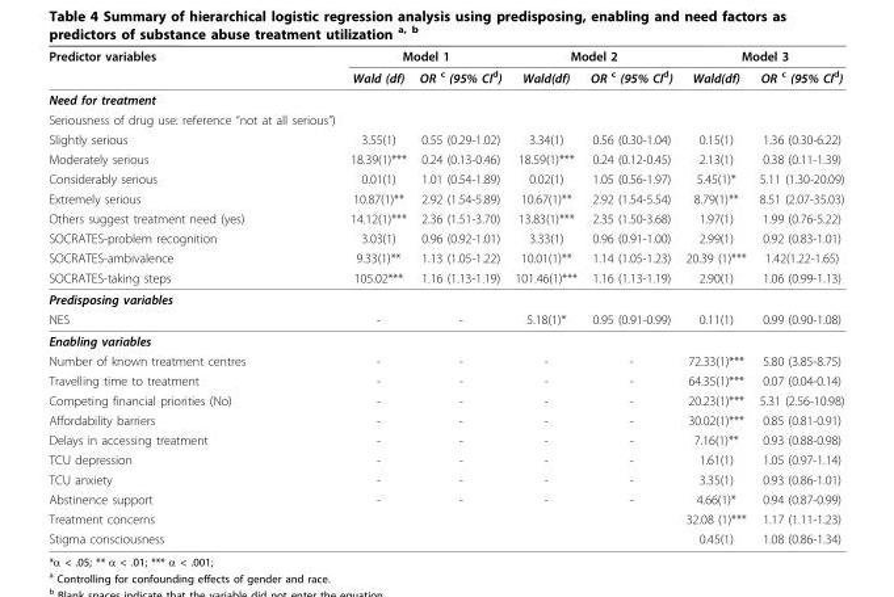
<table><thead><tr><td rowspan="2">Predictor variables</td><td colspan="2">Model 1</td><td colspan="2">Model 2</td><td colspan="2">Model 3</td></tr><tr><td>Wald (df)</td><td>OR <sup>c</sup> (95% CI<sup>d</sup>)</td><td>Wald(df)</td><td>OR <sup>c</sup> (95% CI<sup>d</sup>)</td><td>Wald(df)</td><td>OR <sup>c</sup> (95% CI<sup>d</sup>)</td></tr></thead><tbody><tr><td colspan="7">Need for treatment</td></tr><tr><td colspan="7">Seriousness of drug use: reference “not at all serious”)</td></tr><tr><td>Slightly serious</td><td>3.55(1)</td><td>0.55 (0.29-1.02)</td><td>3.34(1)</td><td>0.56 (0.30-1.04)</td><td>0.15(1)</td><td>1.36 (0.30-6.22)</td></tr><tr><td>Moderately serious</td><td>18.39(1)***</td><td>0.24 (0.13-0.46)</td><td>18.59(1)***</td><td>0.24 (0.12-0.45)</td><td>2.13(1)</td><td>0.38 (0.11-1.39)</td></tr><tr><td>Considerably serious</td><td>0.01(1)</td><td>1.01 (0.54-1.89)</td><td>0.02(1)</td><td>1.05 (0.56-1.97)</td><td>5.45(1)*</td><td>5.11 (1.30-20.09)</td></tr><tr><td>Extremely serious</td><td>10.87(1)**</td><td>2.92 (1.54-5.89)</td><td>10.67(1)**</td><td>2.92 (1.54-5.54)</td><td>8.79(1)**</td><td>8.51 (2.07-35.03)</td></tr><tr><td>Others suggest treatment need (yes)</td><td>14.12(1)***</td><td>2.36 (1.51-3.70)</td><td>13.83(1)***</td><td>2.35 (1.50-3.68)</td><td>1.97(1)</td><td>1.99 (0.76-5.22)</td></tr><tr><td>SOCRATES-problem recognition</td><td>3.03(1)</td><td>0.96 (0.92-1.01)</td><td>3.33(1)</td><td>0.96 (0.91-1.00)</td><td>2.99(1)</td><td>0.92 (0.83-1.01)</td></tr><tr><td>SOCRATES-ambivalence</td><td>9.33(1)**</td><td>1.13 (1.05-1.22)</td><td>10.01(1)**</td><td>1.14 (1.05-1.23)</td><td>20.39 (1)***</td><td>1.42(1.22-1.65)</td></tr><tr><td>SOCRATES-taking steps</td><td>105.02***</td><td>1.16 (1.13-1.19)</td><td>101.46(1)***</td><td>1.16 (1.13-1.19)</td><td>2.90(1)</td><td>1.06 (0.99-1.13)</td></tr><tr><td colspan="7">Predisposing variables</td></tr><tr><td>NES</td><td>-</td><td>-</td><td>5.18(1)*</td><td>0.95 (0.91-0.99)</td><td>0.11(1)</td><td>0.99 (0.90-1.08)</td></tr><tr><td colspan="7">Enabling variables</td></tr><tr><td>Number of known treatment centres</td><td>-</td><td>-</td><td>-</td><td>-</td><td>72.33(1)***</td><td>5.80 (3.85-8.75)</td></tr><tr><td>Travelling time to treatment</td><td>-</td><td>-</td><td>-</td><td>-</td><td>64.35(1)***</td><td>0.07 (0.04-0.14)</td></tr><tr><td>Competing financial priorities (No)</td><td>-</td><td>-</td><td>-</td><td>-</td><td>20.23(1)***</td><td>5.31 (2.56-10.98)</td></tr><tr><td>Affordability barriers</td><td>-</td><td>-</td><td>-</td><td>-</td><td>30.02(1)***</td><td>0.85 (0.81-0.91)</td></tr><tr><td>Delays in accessing treatment</td><td>-</td><td>-</td><td>-</td><td>-</td><td>7.16(1)**</td><td>0.93 (0.88-0.98)</td></tr><tr><td>TCU depression</td><td>-</td><td>-</td><td>-</td><td>-</td><td>1.61(1)</td><td>1.05 (0.97-1.14)</td></tr><tr><td>TCU anxiety</td><td>-</td><td>-</td><td>-</td><td>-</td><td>3.35(1)</td><td>0.93 (0.86-1.01)</td></tr><tr><td>Abstinence support</td><td>-</td><td>-</td><td>-</td><td>-</td><td>4.66(1)*</td><td>0.94 (0.87-0.99)</td></tr><tr><td>Treatment concerns</td><td></td><td></td><td></td><td></td><td>32.08 (1)***</td><td>1.17 (1.11-1.23)</td></tr><tr><td>Stigma consciousness</td><td></td><td></td><td></td><td></td><td>0.45(1)</td><td>1.08 (0.86-1.34)</td></tr></tbody></table>